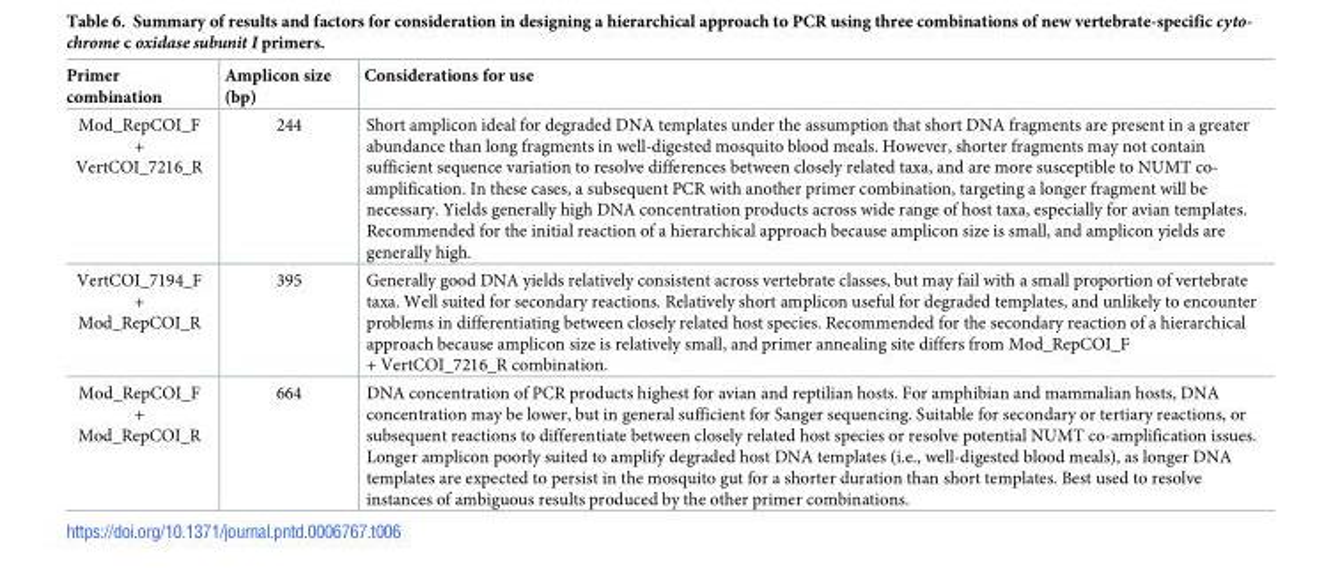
<table><thead><tr><td>Primer combination</td><td>Amplicon size (bp)</td><td>Considerations for use</td></tr></thead><tbody><tr><td>Mod_RepCOI_F + VertCOI_7216_R</td><td>244</td><td>Short amplicon ideal for degraded DNA templates under the assumption that short DNA fragments are present in a greater abundance than long fragments in well-digested mosquito blood meals. However, shorter fragments may not contain sufficient sequence variation to resolve differences between closely related taxa, and are more susceptible to NUMT co- amplification. In these cases, a subsequent PCR with another primer combination, targeting a longer fragment will be necessary. Yields generally high DNA concentration products across wide range of host taxa, especially for avian templates. Recommended for the initial reaction of a hierarchical approach because amplicon size is small, and amplicon yields are generally high.</td></tr><tr><td>VertCOI_7194_F + Mod_RepCOI_R</td><td>395</td><td>Generally good DNA yields relatively consistent across vertebrate classes, but may fail with a small proportion of vertebrate taxa. Well suited for secondary reactions. Relatively short amplicon useful for degraded templates, and unlikely to encounter problems in differentiating between closely related host species. Recommended for the secondary reaction of a hierarchical approach because amplicon size is relatively small, and primer annealing site differs from Mod_RepCOI_F + VertCOI_7216_R combination.</td></tr><tr><td>Mod_RepCOI_F + Mod_RepCOI_R</td><td>664</td><td>DNA concentration of PCR products highest for avian and reptilian hosts. For amphibian and mammalian hosts, DNA concentration may be lower, but in general sufficient for Sanger sequencing. Suitable for secondary or tertiary reactions, or subsequent reactions to differentiate between closely related host species or resolve potential NUMT co-amplification issues. Longer amplicon poorly suited to amplify degraded host DNA templates (i.e., well-digested blood meals), as longer DNA templates are expected to persist in the mosquito gut for a shorter duration than short templates. Best used to resolve instances of ambiguous results produced by the other primer combinations.</td></tr></tbody></table>